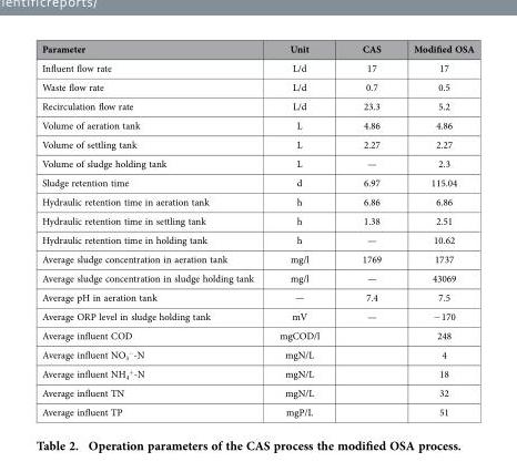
<table><thead><tr><td>Parameter</td><td>Unit</td><td>CAS</td><td>Modified OSA</td></tr></thead><tbody><tr><td>Influent flow rate</td><td>L/d</td><td>17</td><td>17</td></tr><tr><td>Waste flow rate</td><td>L/d</td><td>0.7</td><td>0.5</td></tr><tr><td>Recirculation flow rate</td><td>L/d</td><td>23.3</td><td>5.2</td></tr><tr><td>Volume of aeration tank</td><td>L</td><td>4.86</td><td>4.86</td></tr><tr><td>Volume of settling tank</td><td>L</td><td>2.27</td><td>2.27</td></tr><tr><td>Volume of sludge holding tank</td><td>L</td><td>—</td><td>2.3</td></tr><tr><td>Sludge retention time</td><td>d</td><td>6.97</td><td>115.04</td></tr><tr><td>Hydraulic retention time in aeration tank</td><td>h</td><td>6.86</td><td>6.86</td></tr><tr><td>Hydraulic retention time in settling tank</td><td>h</td><td>1.38</td><td>2.51</td></tr><tr><td>Hydraulic retention time in holding tank</td><td>h</td><td>—</td><td>10.62</td></tr><tr><td>Average sludge concentration in aeration tank</td><td>mg/l</td><td>1769</td><td>1737</td></tr><tr><td>Average sludge concentration in sludge holding tank</td><td>mg/l</td><td>—</td><td>43069</td></tr><tr><td>Average pH in aeration tank</td><td>—</td><td>7.4</td><td>7.5</td></tr><tr><td>Average ORP level in sludge holding tank</td><td>mV</td><td>—</td><td>− 170</td></tr><tr><td>Average influent COD</td><td>mgCOD/l</td><td></td><td>248</td></tr><tr><td>Average influent NO<sub>3</sub> <sup>−</sup>-N</td><td>mgN/L</td><td></td><td>4</td></tr><tr><td>Average influent NH<sub>4</sub> <sup>+</sup>-N</td><td>mgN/L</td><td></td><td>18</td></tr><tr><td>Average influent TN</td><td>mgN/L</td><td></td><td>32</td></tr><tr><td>Average influent TP</td><td>mgP/L</td><td></td><td>51</td></tr></tbody></table>